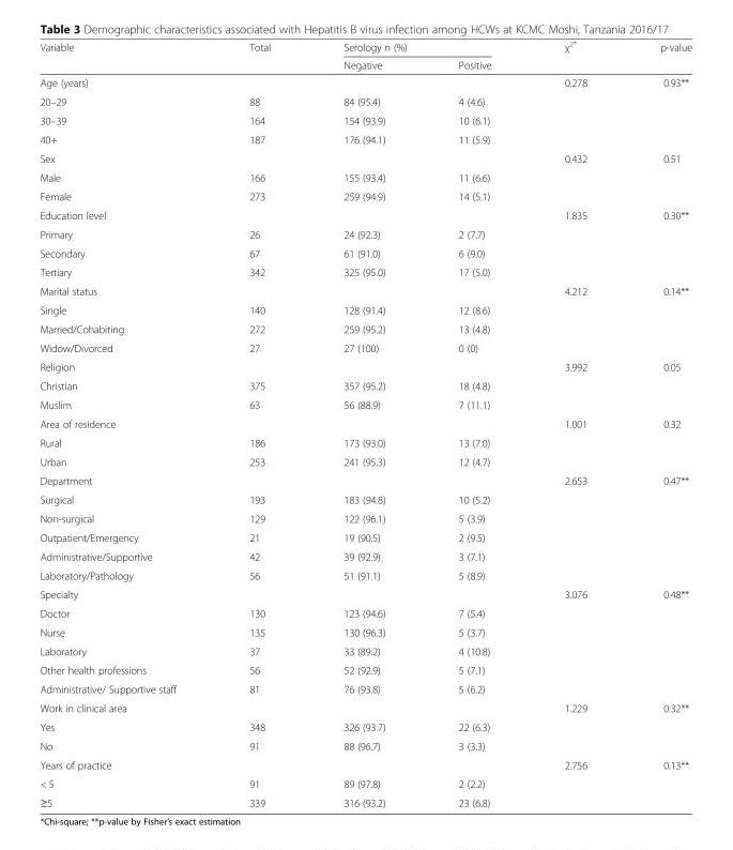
<table><thead><tr><td rowspan="2">Variable</td><td rowspan="2">Total</td><td colspan="2">Serology n (%)</td><td rowspan="2">χ<sup>2*</sup></td><td rowspan="2">p-value</td></tr><tr><td>Negative</td><td>Positive</td></tr></thead><tbody><tr><td>Age (years)</td><td></td><td></td><td></td><td>0.278</td><td>0.93**</td></tr><tr><td>20–29</td><td>88</td><td>84 (95.4)</td><td>4 (4.6)</td><td></td><td></td></tr><tr><td>30–39</td><td>164</td><td>154 (93.9)</td><td>10 (6.1)</td><td></td><td></td></tr><tr><td>40+</td><td>187</td><td>176 (94.1)</td><td>11 (5.9)</td><td></td><td></td></tr><tr><td>Sex</td><td></td><td></td><td></td><td>0.432</td><td>0.51</td></tr><tr><td>Male</td><td>166</td><td>155 (93.4)</td><td>11 (6.6)</td><td></td><td></td></tr><tr><td>Female</td><td>273</td><td>259 (94.9)</td><td>14 (5.1)</td><td></td><td></td></tr><tr><td>Education level</td><td></td><td></td><td></td><td>1.835</td><td>0.30**</td></tr><tr><td>Primary</td><td>26</td><td>24 (92.3)</td><td>2 (7.7)</td><td></td><td></td></tr><tr><td>Secondary</td><td>67</td><td>61 (91.0)</td><td>6 (9.0)</td><td></td><td></td></tr><tr><td>Tertiary</td><td>342</td><td>325 (95.0)</td><td>17 (5.0)</td><td></td><td></td></tr><tr><td>Marital status</td><td></td><td></td><td></td><td>4.212</td><td>0.14**</td></tr><tr><td>Single</td><td>140</td><td>128 (91.4)</td><td>12 (8.6)</td><td></td><td></td></tr><tr><td>Married/Cohabiting</td><td>272</td><td>259 (95.2)</td><td>13 (4.8)</td><td></td><td></td></tr><tr><td>Widow/Divorced</td><td>27</td><td>27 (100)</td><td>0 (0)</td><td></td><td></td></tr><tr><td>Religion</td><td></td><td></td><td></td><td>3.992</td><td>0.05</td></tr><tr><td>Christian</td><td>375</td><td>357 (95.2)</td><td>18 (4.8)</td><td></td><td></td></tr><tr><td>Muslim</td><td>63</td><td>56 (88.9)</td><td>7 (11.1)</td><td></td><td></td></tr><tr><td>Area of residence</td><td></td><td></td><td></td><td>1.001</td><td>0.32</td></tr><tr><td>Rural</td><td>186</td><td>173 (93.0)</td><td>13 (7.0)</td><td></td><td></td></tr><tr><td>Urban</td><td>253</td><td>241 (95.3)</td><td>12 (4.7)</td><td></td><td></td></tr><tr><td>Department</td><td></td><td></td><td></td><td>2.653</td><td>0.47**</td></tr><tr><td>Surgical</td><td>193</td><td>183 (94.8)</td><td>10 (5.2)</td><td></td><td></td></tr><tr><td>Non-surgical</td><td>129</td><td>122 (96.1)</td><td>5 (3.9)</td><td></td><td></td></tr><tr><td>Outpatient/Emergency</td><td>21</td><td>19 (90.5)</td><td>2 (9.5)</td><td></td><td></td></tr><tr><td>Administrative/Supportive</td><td>42</td><td>39 (92.9)</td><td>3 (7.1)</td><td></td><td></td></tr><tr><td>Laboratory/Pathology</td><td>56</td><td>51 (91.1)</td><td>5 (8.9)</td><td></td><td></td></tr><tr><td>Specialty</td><td></td><td></td><td></td><td>3.076</td><td>0.48**</td></tr><tr><td>Doctor</td><td>130</td><td>123 (94.6)</td><td>7 (5.4)</td><td></td><td></td></tr><tr><td>Nurse</td><td>135</td><td>130 (96.3)</td><td>5 (3.7)</td><td></td><td></td></tr><tr><td>Laboratory</td><td>37</td><td>33 (89.2)</td><td>4 (10.8)</td><td></td><td></td></tr><tr><td>Other health professions</td><td>56</td><td>52 (92.9)</td><td>5 (7.1)</td><td></td><td></td></tr><tr><td>Administrative/ Supportive staff</td><td>81</td><td>76 (93.8)</td><td>5 (6.2)</td><td></td><td></td></tr><tr><td>Work in clinical area</td><td></td><td></td><td></td><td>1.229</td><td>0.32**</td></tr><tr><td>Yes</td><td>348</td><td>326 (93.7)</td><td>22 (6.3)</td><td></td><td></td></tr><tr><td>No</td><td>91</td><td>88 (96.7)</td><td>3 (3.3)</td><td></td><td></td></tr><tr><td>Years of practice</td><td></td><td></td><td></td><td>2.756</td><td>0.13**</td></tr><tr><td>&lt; 5</td><td>91</td><td>89 (97.8)</td><td>2 (2.2)</td><td></td><td></td></tr><tr><td>≥5</td><td>339</td><td>316 (93.2)</td><td>23 (6.8)</td><td></td><td></td></tr></tbody></table>